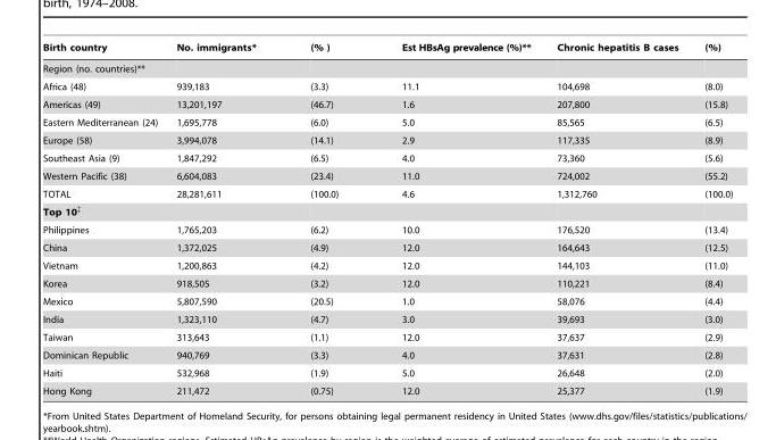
<table><thead><tr><td>Birth country</td><td>No. immigrants*</td><td>(% )</td><td>Est HBsAg prevalence (%)**</td><td>Chronic hepatitis B cases</td><td>(%)</td></tr></thead><tbody><tr><td colspan="6">Region (no. countries)**</td></tr><tr><td>Africa (48)</td><td>939,183</td><td>(3.3)</td><td>11.1</td><td>104,698</td><td>(8.0)</td></tr><tr><td>Americas (49)</td><td>13,201,197</td><td>(46.7)</td><td>1.6</td><td>207,800</td><td>(15.8)</td></tr><tr><td>Eastern Mediterranean (24)</td><td>1,695,778</td><td>(6.0)</td><td>5.0</td><td>85,565</td><td>(6.5)</td></tr><tr><td>Europe (58)</td><td>3,994,078</td><td>(14.1)</td><td>2.9</td><td>117,335</td><td>(8.9)</td></tr><tr><td>Southeast Asia (9)</td><td>1,847,292</td><td>(6.5)</td><td>4.0</td><td>73,360</td><td>(5.6)</td></tr><tr><td>Western Pacific (38)</td><td>6,604,083</td><td>(23.4)</td><td>11.0</td><td>724,002</td><td>(55.2)</td></tr><tr><td>TOTAL</td><td>28,281,611</td><td>(100.0)</td><td>4.6</td><td>1,312,760</td><td>(100.0)</td></tr><tr><td colspan="6">Top 10‡</td></tr><tr><td>Philippines</td><td>1,765,203</td><td>(6.2)</td><td>10.0</td><td>176,520</td><td>(13.4)</td></tr><tr><td>China</td><td>1,372,025</td><td>(4.9)</td><td>12.0</td><td>164,643</td><td>(12.5)</td></tr><tr><td>Vietnam</td><td>1,200,863</td><td>(4.2)</td><td>12.0</td><td>144,103</td><td>(11.0)</td></tr><tr><td>Korea</td><td>918,505</td><td>(3.2)</td><td>12.0</td><td>110,221</td><td>(8.4)</td></tr><tr><td>Mexico</td><td>5,807,590</td><td>(20.5)</td><td>1.0</td><td>58,076</td><td>(4.4)</td></tr><tr><td>India</td><td>1,323,110</td><td>(4.7)</td><td>3.0</td><td>39,693</td><td>(3.0)</td></tr><tr><td>Taiwan</td><td>313,643</td><td>(1.1)</td><td>12.0</td><td>37,637</td><td>(2.9)</td></tr><tr><td>Dominican Republic</td><td>940,769</td><td>(3.3)</td><td>4.0</td><td>37,631</td><td>(2.8)</td></tr><tr><td>Haiti</td><td>532,968</td><td>(1.9)</td><td>5.0</td><td>26,648</td><td>(2.0)</td></tr><tr><td>Hong Kong</td><td>211,472</td><td>(0.75)</td><td>12.0</td><td>25,377</td><td>(1.9)</td></tr></tbody></table>